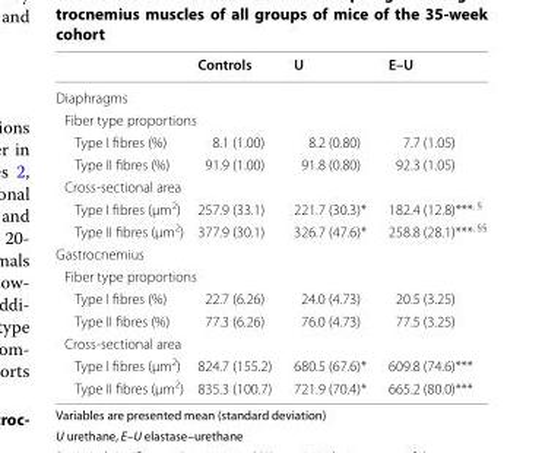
<table><thead><tr><td></td><td>Controls</td><td>U</td><td>E–U</td></tr></thead><tbody><tr><td colspan="4">Diaphragms</td></tr><tr><td colspan="4">Fiber type proportions</td></tr><tr><td>Type I fibres (%)</td><td>8.1 (1.00)</td><td>8.2 (0.80)</td><td>7.7 (1.05)</td></tr><tr><td>Type II fibres (%)</td><td>91.9 (1.00)</td><td>91.8 (0.80)</td><td>92.3 (1.05)</td></tr><tr><td colspan="4">Cross‑sectional area</td></tr><tr><td>Type I fibres (μm<sup>2</sup>)</td><td>257.9 (33.1)</td><td>221.7 (30.3)*</td><td>182.4 (12.8)***<sup>, §</sup></td></tr><tr><td>Type II fibres (μm<sup>2</sup>)</td><td>377.9 (30.1)</td><td>326.7 (47.6)*</td><td>258.8 (28.1)***<sup>, §§</sup></td></tr><tr><td colspan="4">Gastrocnemius</td></tr><tr><td colspan="4">Fiber type proportions</td></tr><tr><td>Type I fibres (%)</td><td>22.7 (6.26)</td><td>24.0 (4.73)</td><td>20.5 (3.25)</td></tr><tr><td>Type II fibres (%)</td><td>77.3 (6.26)</td><td>76.0 (4.73)</td><td>77.5 (3.25)</td></tr><tr><td colspan="4">Cross‑sectional area</td></tr><tr><td>Type I fibres (μm<sup>2</sup>)</td><td>824.7 (155.2)</td><td>680.5 (67.6)*</td><td>609.8 (74.6)***</td></tr><tr><td>Type II fibres (μm<sup>2</sup>)</td><td>835.3 (100.7)</td><td>721.9 (70.4)*</td><td>665.2 (80.0)***</td></tr></tbody></table>